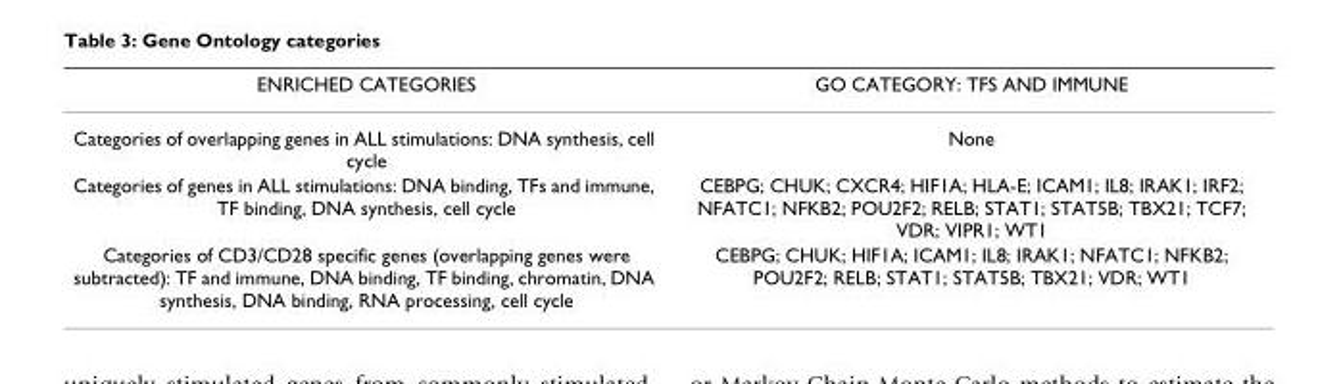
<table><thead><tr><td>ENRICHED CATEGORIES</td><td>GO CATEGORY: TFS AND IMMUNE</td></tr></thead><tbody><tr><td>Categories of overlapping genes in ALL stimulations: DNA synthesis, cell cycle</td><td>None</td></tr><tr><td>Categories of genes in ALL stimulations: DNA binding, TFs and immune, TF binding, DNA synthesis, cell cycle</td><td>CEBPG; CHUK; CXCR4; HIF1A; HLA-E; ICAM1; IL8; IRAK1; IRF2; NFATC1; NFKB2; POU2F2; RELB; STAT1; STAT5B; TBX21; TCF7; VDR; VIPR1; WT1</td></tr><tr><td>Categories of CD3/CD28 specific genes (overlapping genes were subtracted): TF and immune, DNA binding, TF binding, chromatin, DNA synthesis, DNA binding, RNA processing, cell cycle</td><td>CEBPG; CHUK; HIF1A; ICAM1; IL8; IRAK1; NFATC1; NFKB2; POU2F2; RELB; STAT1; STAT5B; TBX21; VDR; WT1</td></tr></tbody></table>